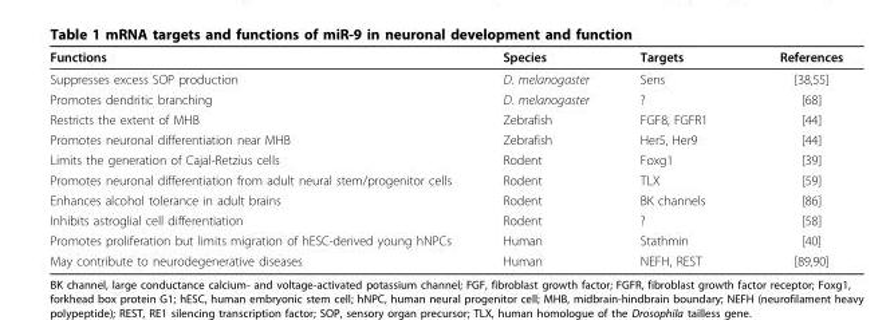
<table><thead><tr><td>Functions</td><td>Species</td><td>Targets</td><td>References</td></tr></thead><tbody><tr><td>Suppresses excess SOP production</td><td>D. melanogaster</td><td>Sens</td><td>[38,55]</td></tr><tr><td>Promotes dendritic branching</td><td>D. melanogaster</td><td>?</td><td>[68]</td></tr><tr><td>Restricts the extent of MHB</td><td>Zebrafish</td><td>FGF8, FGFR1</td><td>[44]</td></tr><tr><td>Promotes neuronal differentiation near MHB</td><td>Zebrafish</td><td>Her5, Her9</td><td>[44]</td></tr><tr><td>Limits the generation of Cajal-Retzius cells</td><td>Rodent</td><td>Foxg1</td><td>[39]</td></tr><tr><td>Promotes neuronal differentiation from adult neural stem/progenitor cells</td><td>Rodent</td><td>TLX</td><td>[59]</td></tr><tr><td>Enhances alcohol tolerance in adult brains</td><td>Rodent</td><td>BK channels</td><td>[86]</td></tr><tr><td>Inhibits astroglial cell differentiation</td><td>Rodent</td><td>?</td><td>[58]</td></tr><tr><td>Promotes proliferation but limits migration of hESC-derived young hNPCs</td><td>Human</td><td>Stathmin</td><td>[40]</td></tr><tr><td>May contribute to neurodegenerative diseases</td><td>Human</td><td>NEFH, REST</td><td>[89,90]</td></tr></tbody></table>